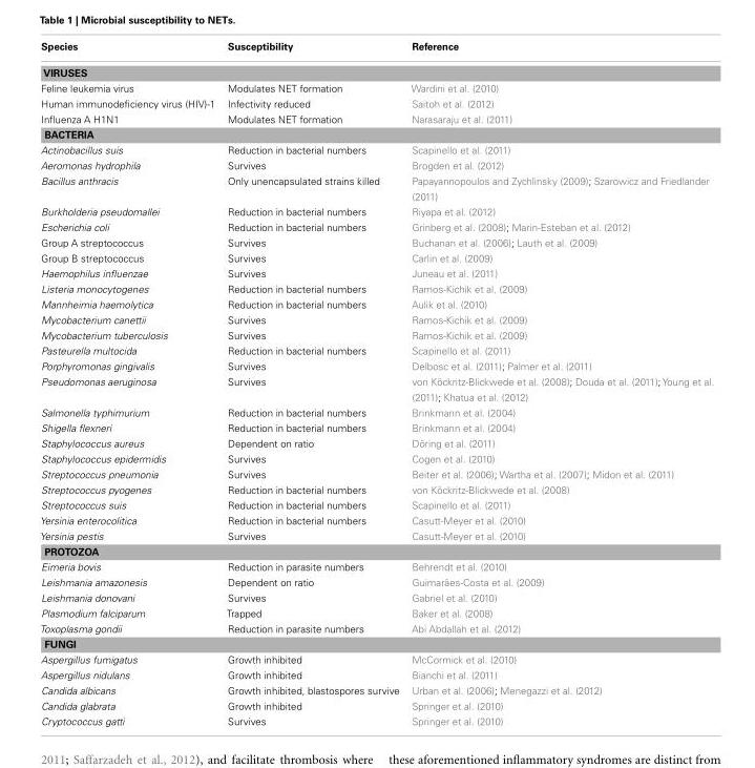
<table><thead><tr><td>Species</td><td>Susceptibility</td><td>Reference</td></tr></thead><tbody><tr><td colspan="3">VIRUSES</td></tr><tr><td>Feline leukemia virus</td><td>Modulates NET formation</td><td>Wardini et al. (2010)</td></tr><tr><td>Human immunodeficiency virus (HIV)-1</td><td>Infectivity reduced</td><td>Saitoh et al. (2012)</td></tr><tr><td>Influenza A H1N1</td><td>Modulates NET formation</td><td>Narasaraju et al. (2011)</td></tr><tr><td colspan="3">BACTERIA</td></tr><tr><td>Actinobacillus suis</td><td>Reduction in bacterial numbers</td><td>Scapinello et al. (2011)</td></tr><tr><td>Aeromonas hydrophila</td><td>Survives</td><td>Brogden et al. (2012)</td></tr><tr><td>Bacillus anthracis</td><td>Only unencapsulated strains killed</td><td>Papayannopoulos and Zychlinsky (2009); Szarowicz and Friedlander (2011)</td></tr><tr><td>Burkholderia pseudomallei</td><td>Reduction in bacterial numbers</td><td>Riyapa et al. (2012)</td></tr><tr><td>Escherichia coli</td><td>Reduction in bacterial numbers</td><td>Grinberg et al. (2008); Marin-Esteban et al. (2012)</td></tr><tr><td>Group A streptococcus</td><td>Survives</td><td>Buchanan et al. (2006); Lauth et al. (2009)</td></tr><tr><td>Group B streptococcus</td><td>Survives</td><td>Carlin et al. (2009)</td></tr><tr><td>Haemophilus influenzae</td><td>Survives</td><td>Juneau et al. (2011)</td></tr><tr><td>Listeria monocytogenes</td><td>Reduction in bacterial numbers</td><td>Ramos-Kichik et al. (2009)</td></tr><tr><td>Mannheimia haemolytica</td><td>Reduction in bacterial numbers</td><td>Aulik et al. (2010)</td></tr><tr><td>Mycobacterium canettii</td><td>Survives</td><td>Ramos-Kichik et al. (2009)</td></tr><tr><td>Mycobacterium tuberculosis</td><td>Survives</td><td>Ramos-Kichik et al. (2009)</td></tr><tr><td>Pasteurella multocida</td><td>Reduction in bacterial numbers</td><td>Scapinello et al. (2011)</td></tr><tr><td>Porphyromonas gingivalis</td><td>Survives</td><td>Delbosc et al. (2011); Palmer et al. (2011)</td></tr><tr><td>Pseudomonas aeruginosa</td><td>Survives</td><td>von Köckritz-Blickwede et al. (2008); Douda et al. (2011); Young et al. (2011); Khatua et al. (2012)</td></tr><tr><td>Salmonella typhimurium</td><td>Reduction in bacterial numbers</td><td>Brinkmann et al. (2004)</td></tr><tr><td>Shigella flexneri</td><td>Reduction in bacterial numbers</td><td>Brinkmann et al. (2004)</td></tr><tr><td>Staphylococcus aureus</td><td>Dependent on ratio</td><td>Döring et al. (2011)</td></tr><tr><td>Staphylococcus epidermidis</td><td>Survives</td><td>Cogen et al. (2010)</td></tr><tr><td>Streptococcus pneumonia</td><td>Survives</td><td>Beiter et al. (2006); Wartha et al. (2007); Midon et al. (2011)</td></tr><tr><td>Streptococcus pyogenes</td><td>Reduction in bacterial numbers</td><td>von Köckritz-Blickwede et al. (2008)</td></tr><tr><td>Streptococcus suis</td><td>Reduction in bacterial numbers</td><td>Scapinello et al. (2011)</td></tr><tr><td>Yersinia enterocolitica</td><td>Reduction in bacterial numbers</td><td>Casutt-Meyer et al. (2010)</td></tr><tr><td>Yersinia pestis</td><td>Survives</td><td>Casutt-Meyer et al. (2010)</td></tr><tr><td colspan="3">PROTOZOA</td></tr><tr><td>Eimeria bovis</td><td>Reduction in parasite numbers</td><td>Behrendt et al. (2010)</td></tr><tr><td>Leishmania amazonesis</td><td>Dependent on ratio</td><td>Guimarães-Costa et al. (2009)</td></tr><tr><td>Leishmania donovani</td><td>Survives</td><td>Gabriel et al. (2010)</td></tr><tr><td>Plasmodium falciparum</td><td>Trapped</td><td>Baker et al. (2008)</td></tr><tr><td>Toxoplasma gondii</td><td>Reduction in parasite numbers</td><td>Abi Abdallah et al. (2012)</td></tr><tr><td colspan="3">FUNGI</td></tr><tr><td>Aspergillus fumigatus</td><td>Growth inhibited</td><td>McCormick et al. (2010)</td></tr><tr><td>Aspergillus nidulans</td><td>Growth inhibited</td><td>Bianchi et al. (2011)</td></tr><tr><td>Candida albicans</td><td>Growth inhibited, blastospores survive</td><td>Urban et al. (2006); Menegazzi et al. (2012)</td></tr><tr><td>Candida glabrata</td><td>Growth inhibited</td><td>Springer et al. (2010)</td></tr><tr><td>Cryptococcus gatti</td><td>Survives</td><td>Springer et al. (2010)</td></tr></tbody></table>